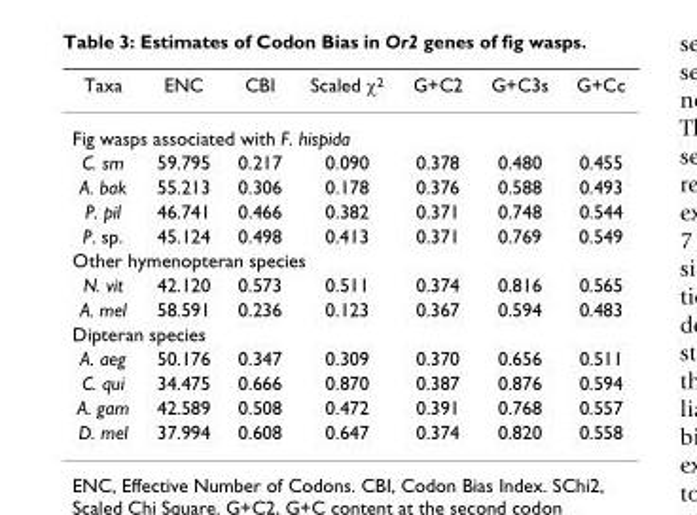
<table><thead><tr><td>Taxa</td><td>ENC</td><td>CBI</td><td>Scaled χ<sup>2</sup></td><td>G+C2</td><td>G+C3s</td><td>G+Cc</td></tr></thead><tbody><tr><td colspan="7">Fig wasps associated with F. hispida</td></tr><tr><td>C. sm</td><td>59.795</td><td>0.217</td><td>0.090</td><td>0.378</td><td>0.480</td><td>0.455</td></tr><tr><td>A. bak</td><td>55.213</td><td>0.306</td><td>0.178</td><td>0.376</td><td>0.588</td><td>0.493</td></tr><tr><td>P. pil</td><td>46.741</td><td>0.466</td><td>0.382</td><td>0.371</td><td>0.748</td><td>0.544</td></tr><tr><td>P. sp.</td><td>45.124</td><td>0.498</td><td>0.413</td><td>0.371</td><td>0.769</td><td>0.549</td></tr><tr><td colspan="7">Other hymenopteran species</td></tr><tr><td>N. vit</td><td>42.120</td><td>0.573</td><td>0.511</td><td>0.374</td><td>0.816</td><td>0.565</td></tr><tr><td>A. mel</td><td>58.591</td><td>0.236</td><td>0.123</td><td>0.367</td><td>0.594</td><td>0.483</td></tr><tr><td colspan="7">Dipteran species</td></tr><tr><td>A. aeg</td><td>50.176</td><td>0.347</td><td>0.309</td><td>0.370</td><td>0.656</td><td>0.511</td></tr><tr><td>C. qui</td><td>34.475</td><td>0.666</td><td>0.870</td><td>0.387</td><td>0.876</td><td>0.594</td></tr><tr><td>A. gam</td><td>42.589</td><td>0.508</td><td>0.472</td><td>0.391</td><td>0.768</td><td>0.557</td></tr><tr><td>D. mel</td><td>37.994</td><td>0.608</td><td>0.647</td><td>0.374</td><td>0.820</td><td>0.558</td></tr></tbody></table>